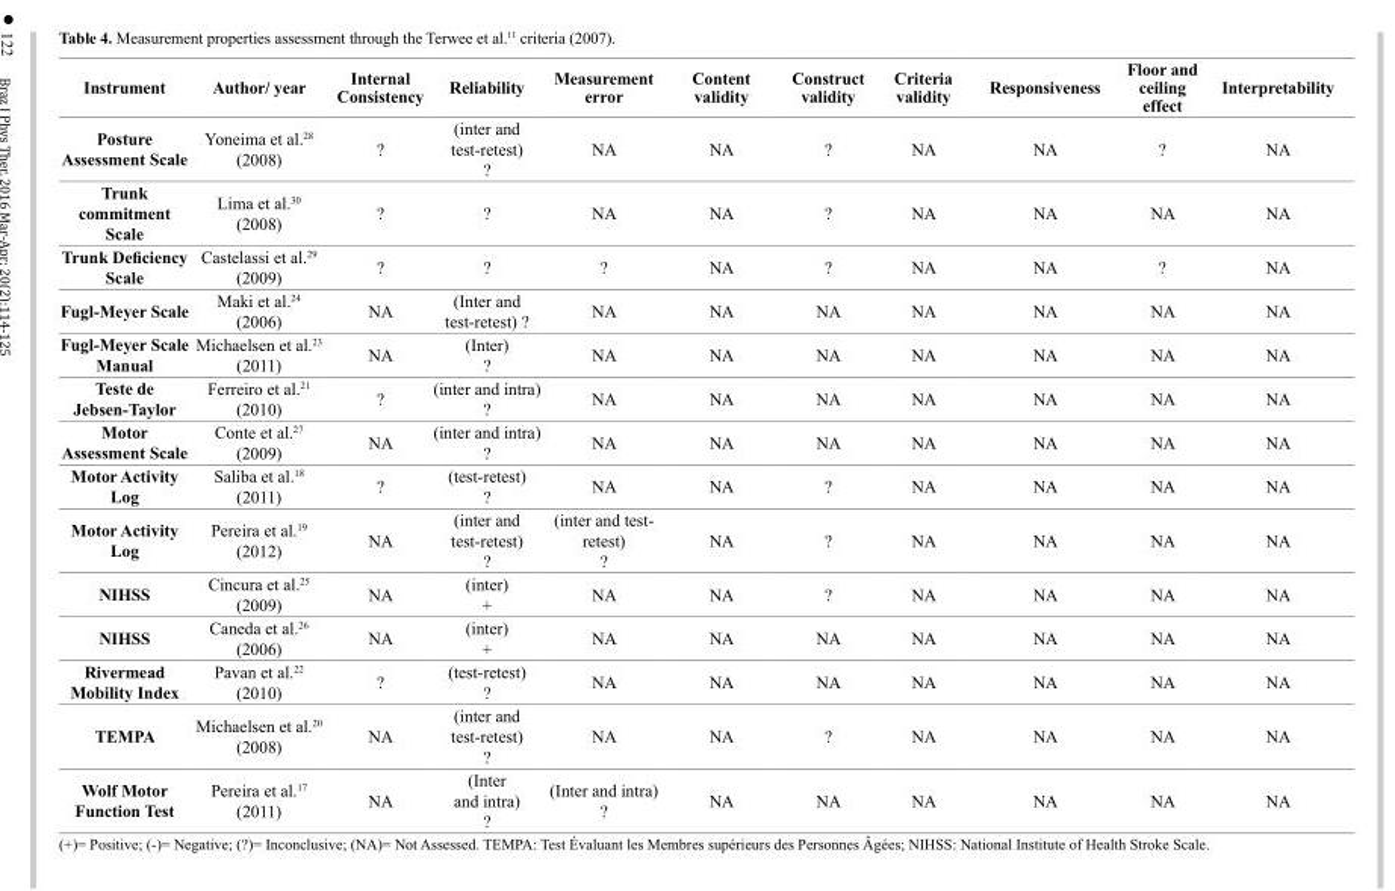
<table><thead><tr><td>Instrument</td><td>Author/ year</td><td>Internal Consistency</td><td>Reliability</td><td>Measurement error</td><td>Content validity</td><td>Construct validity</td><td>Criteria validity</td><td>Responsiveness</td><td>Floor and ceiling effect</td><td>Interpretability</td></tr></thead><tbody><tr><td>Posture Assessment Scale</td><td>Yoneima et al.<sup>28</sup> (2008)</td><td>?</td><td>(inter and test-retest) ?</td><td>NA</td><td>NA</td><td>?</td><td>NA</td><td>NA</td><td>?</td><td>NA</td></tr><tr><td>Trunk commitment Scale</td><td>Lima et al.<sup>30</sup> (2008)</td><td>?</td><td>?</td><td>NA</td><td>NA</td><td>?</td><td>NA</td><td>NA</td><td>NA</td><td>NA</td></tr><tr><td>Trunk Deficiency Scale</td><td>Castelassi et al.<sup>29</sup> (2009)</td><td>?</td><td>?</td><td>?</td><td>NA</td><td>?</td><td>NA</td><td>NA</td><td>?</td><td>NA</td></tr><tr><td>Fugl-Meyer Scale</td><td>Maki et al.<sup>24</sup> (2006)</td><td>NA</td><td>(Inter and test-retest) ?</td><td>NA</td><td>NA</td><td>NA</td><td>NA</td><td>NA</td><td>NA</td><td>NA</td></tr><tr><td>Fugl-Meyer Scale Manual</td><td>Michaelsen et al.<sup>23</sup> (2011)</td><td>NA</td><td>(Inter) ?</td><td>NA</td><td>NA</td><td>NA</td><td>NA</td><td>NA</td><td>NA</td><td>NA</td></tr><tr><td>Teste de Jebsen-Taylor</td><td>Ferreiro et al.<sup>21</sup> (2010)</td><td>?</td><td>(inter and intra) ?</td><td>NA</td><td>NA</td><td>NA</td><td>NA</td><td>NA</td><td>NA</td><td>NA</td></tr><tr><td>Motor Assessment Scale</td><td>Conte et al.<sup>27</sup> (2009)</td><td>NA</td><td>(inter and intra) ?</td><td>NA</td><td>NA</td><td>NA</td><td>NA</td><td>NA</td><td>NA</td><td>NA</td></tr><tr><td>Motor Activity Log</td><td>Saliba et al.<sup>18</sup> (2011)</td><td>?</td><td>(test-retest) ?</td><td>NA</td><td>NA</td><td>?</td><td>NA</td><td>NA</td><td>NA</td><td>NA</td></tr><tr><td>Motor Activity Log</td><td>Pereira et al.<sup>19</sup> (2012)</td><td>NA</td><td>(inter and test-retest) ?</td><td>(inter and test- retest) ?</td><td>NA</td><td>?</td><td>NA</td><td>NA</td><td>NA</td><td>NA</td></tr><tr><td>NIHSS</td><td>Cincura et al.<sup>25</sup> (2009)</td><td>NA</td><td>(inter) +</td><td>NA</td><td>NA</td><td>?</td><td>NA</td><td>NA</td><td>NA</td><td>NA</td></tr><tr><td>NIHSS</td><td>Caneda et al.<sup>26</sup> (2006)</td><td>NA</td><td>(inter) +</td><td>NA</td><td>NA</td><td>NA</td><td>NA</td><td>NA</td><td>NA</td><td>NA</td></tr><tr><td>Rivermead Mobility Index</td><td>Pavan et al.<sup>22</sup> (2010)</td><td>?</td><td>(test-retest) ?</td><td>NA</td><td>NA</td><td>NA</td><td>NA</td><td>NA</td><td>NA</td><td>NA</td></tr><tr><td>TEMPA</td><td>Michaelsen et al.<sup>20</sup> (2008)</td><td>NA</td><td>(inter and test-retest) ?</td><td>NA</td><td>NA</td><td>?</td><td>NA</td><td>NA</td><td>NA</td><td>NA</td></tr><tr><td>Wolf Motor Function Test</td><td>Pereira et al.<sup>17</sup> (2011)</td><td>NA</td><td>(Inter and intra) ?</td><td>(Inter and intra) ?</td><td>NA</td><td>NA</td><td>NA</td><td>NA</td><td>NA</td><td>NA</td></tr></tbody></table>